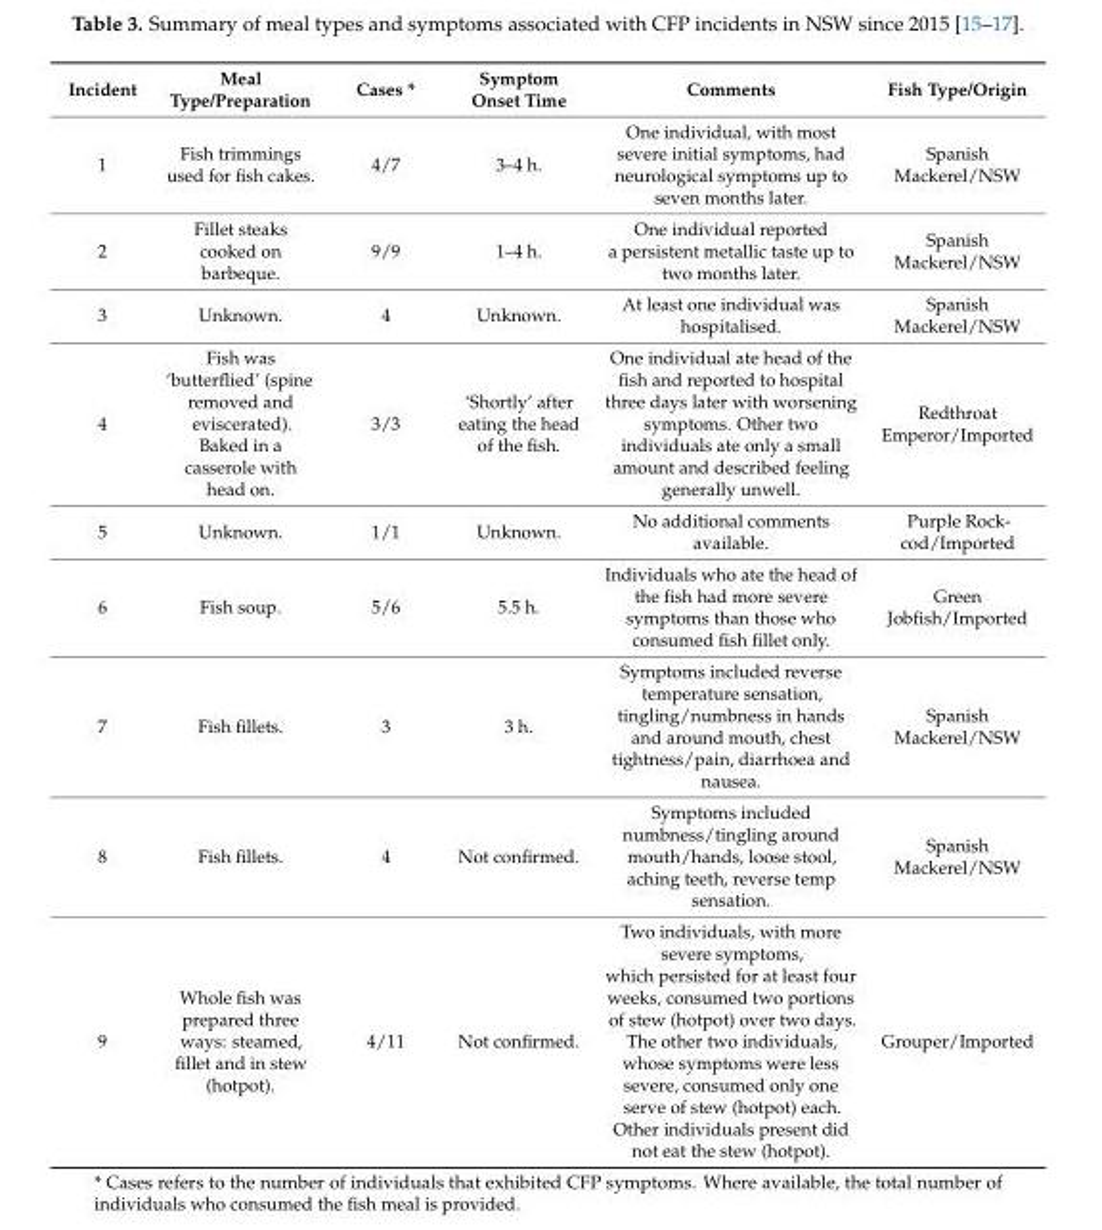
<table><thead><tr><td>Incident</td><td>Meal Type/Preparation</td><td>Cases *</td><td>Symptom Onset Time</td><td>Comments</td><td>Fish Type/Origin</td></tr></thead><tbody><tr><td>1</td><td>Fish trimmings used for fish cakes.</td><td>4/7</td><td>3–4 h.</td><td>One individual, with most severe initial symptoms, had neurological symptoms up to seven months later.</td><td>Spanish Mackerel/NSW</td></tr><tr><td>2</td><td>Fillet steaks cooked on barbeque.</td><td>9/9</td><td>1–4 h.</td><td>One individual reported a persistent metallic taste up to two months later.</td><td>Spanish Mackerel/NSW</td></tr><tr><td>3</td><td>Unknown.</td><td>4</td><td>Unknown.</td><td>At least one individual was hospitalised.</td><td>Spanish Mackerel/NSW</td></tr><tr><td>4</td><td>Fish was ‘butterflied’ (spine removed and eviscerated). Baked in a casserole with head on.</td><td>3/3</td><td>‘Shortly’ after eating the head of the fish.</td><td>One individual ate head of the fish and reported to hospital three days later with worsening symptoms. Other two individuals ate only a small amount and described feeling generally unwell.</td><td>Redthroat Emperor/Imported</td></tr><tr><td>5</td><td>Unknown.</td><td>1/1</td><td>Unknown.</td><td>No additional comments available.</td><td>Purple Rock- cod/Imported</td></tr><tr><td>6</td><td>Fish soup.</td><td>5/6</td><td>5.5 h.</td><td>Individuals who ate the head of the fish had more severe symptoms than those who consumed fish fillet only.</td><td>Green Jobfish/Imported</td></tr><tr><td>7</td><td>Fish fillets.</td><td>3</td><td>3 h.</td><td>Symptoms included reverse temperature sensation, tingling/numbness in hands and around mouth, chest tightness/pain, diarrhoea and nausea.</td><td>Spanish Mackerel/NSW</td></tr><tr><td>8</td><td>Fish fillets.</td><td>4</td><td>Not confirmed.</td><td>Symptoms included numbness/tingling around mouth/hands, loose stool, aching teeth, reverse temp sensation.</td><td>Spanish Mackerel/NSW</td></tr><tr><td>9</td><td>Whole fish was prepared three ways: steamed, fillet and in stew (hotpot).</td><td>4/11</td><td>Not confirmed.</td><td>Two individuals, with more severe symptoms, which persisted for at least four weeks, consumed two portions of stew (hotpot) over two days. The other two individuals, whose symptoms were less severe, consumed only one serve of stew (hotpot) each. Other individuals present did not eat the stew (hotpot).</td><td>Grouper/Imported</td></tr></tbody></table>